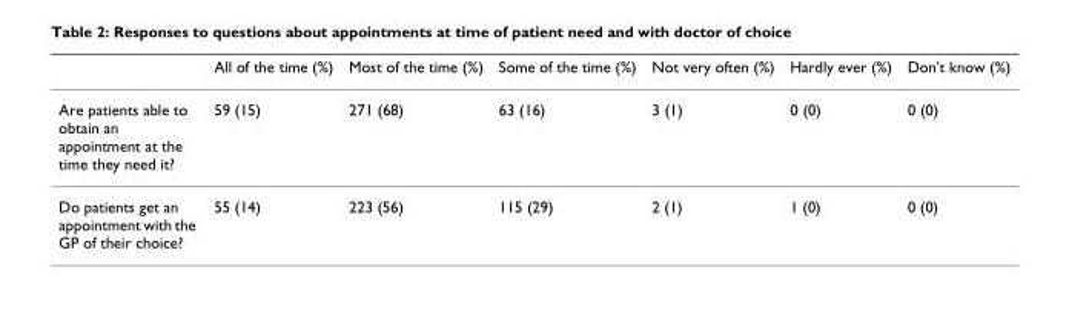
<table><thead><tr><td></td><td>All of the time (%)</td><td>Most of the time (%)</td><td>Some of the time (%)</td><td>Not very often (%)</td><td>Hardly ever (%)</td><td>Don&#x27;t know (%)</td></tr></thead><tbody><tr><td>Are patients able to obtain an appointment at the time they need it?</td><td>59 (15)</td><td>271 (68)</td><td>63 (16)</td><td>3 (1)</td><td>0 (0)</td><td>0 (0)</td></tr><tr><td>Do patients get an appointment with the GP of their choice?</td><td>55 (14)</td><td>223 (56)</td><td>115 (29)</td><td>2 (1)</td><td>1 (0)</td><td>0 (0)</td></tr></tbody></table>